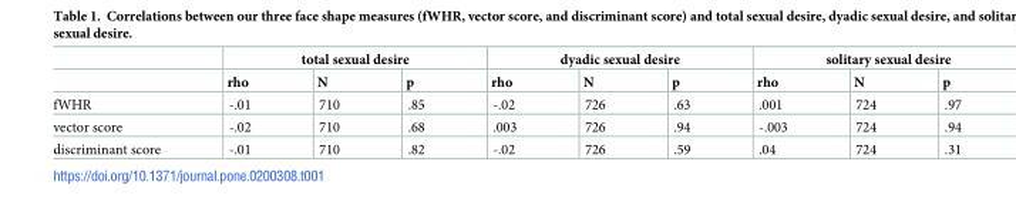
<table><thead><tr><td rowspan="2"></td><td colspan="3">total sexual desire</td><td colspan="3">dyadic sexual desire</td><td colspan="3">solitary sexual desire</td></tr><tr><td>rho</td><td>N</td><td>p</td><td>rho</td><td>N</td><td>p</td><td>rho</td><td>N</td><td>p</td></tr></thead><tbody><tr><td>fWHR</td><td>-.01</td><td>710</td><td>.85</td><td>-.02</td><td>726</td><td>.63</td><td>.001</td><td>724</td><td>.97</td></tr><tr><td>vector score</td><td>-.02</td><td>710</td><td>.68</td><td>.003</td><td>726</td><td>.94</td><td>-.003</td><td>724</td><td>.94</td></tr><tr><td>discriminant score</td><td>-.01</td><td>710</td><td>.82</td><td>-.02</td><td>726</td><td>.59</td><td>.04</td><td>724</td><td>.31</td></tr></tbody></table>